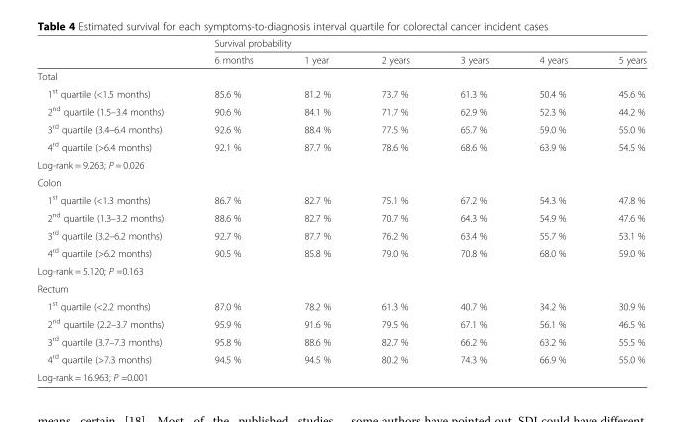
<table><thead><tr><td rowspan="2"></td><td colspan="6">Survival probability</td></tr><tr><td>6 months</td><td>1 year</td><td>2 years</td><td>3 years</td><td>4 years</td><td>5 years</td></tr></thead><tbody><tr><td colspan="7">Total</td></tr><tr><td>1<sup>st</sup> quartile (&lt;1.5 months)</td><td>85.6 %</td><td>81.2 %</td><td>73.7 %</td><td>61.3 %</td><td>50.4 %</td><td>45.6 %</td></tr><tr><td>2<sup>nd</sup> quartile (1.5–3.4 months)</td><td>90.6 %</td><td>84.1 %</td><td>71.7 %</td><td>62.9 %</td><td>52.3 %</td><td>44.2 %</td></tr><tr><td>3<sup>rd</sup> quartile (3.4–6.4 months)</td><td>92.6 %</td><td>88.4 %</td><td>77.5 %</td><td>65.7 %</td><td>59.0 %</td><td>55.0 %</td></tr><tr><td>4<sup>rd</sup> quartile (&gt;6.4 months)</td><td>92.1 %</td><td>87.7 %</td><td>78.6 %</td><td>68.6 %</td><td>63.9 %</td><td>54.5 %</td></tr><tr><td colspan="7">Log-rank = 9.263; P = 0.026</td></tr><tr><td colspan="7">Colon</td></tr><tr><td>1<sup>st</sup> quartile (&lt;1.3 months)</td><td>86.7 %</td><td>82.7 %</td><td>75.1 %</td><td>67.2 %</td><td>54.3 %</td><td>47.8 %</td></tr><tr><td>2<sup>nd</sup> quartile (1.3–3.2 months)</td><td>88.6 %</td><td>82.7 %</td><td>70.7 %</td><td>64.3 %</td><td>54.9 %</td><td>47.6 %</td></tr><tr><td>3<sup>rd</sup> quartile (3.2–6.2 months)</td><td>92.7 %</td><td>87.7 %</td><td>76.2 %</td><td>63.4 %</td><td>55.7 %</td><td>53.1 %</td></tr><tr><td>4<sup>rd</sup> quartile (&gt;6.2 months)</td><td>90.5 %</td><td>85.8 %</td><td>79.0 %</td><td>70.8 %</td><td>68.0 %</td><td>59.0 %</td></tr><tr><td colspan="7">Log-rank = 5.120; P =0.163</td></tr><tr><td colspan="7">Rectum</td></tr><tr><td>1<sup>st</sup> quartile (&lt;2.2 months)</td><td>87.0 %</td><td>78.2 %</td><td>61.3 %</td><td>40.7 %</td><td>34.2 %</td><td>30.9 %</td></tr><tr><td>2<sup>nd</sup> quartile (2.2–3.7 months)</td><td>95.9 %</td><td>91.6 %</td><td>79.5 %</td><td>67.1 %</td><td>56.1 %</td><td>46.5 %</td></tr><tr><td>3<sup>rd</sup> quartile (3.7–7.3 months)</td><td>95.8 %</td><td>88.6 %</td><td>82.7 %</td><td>66.2 %</td><td>63.2 %</td><td>55.5 %</td></tr><tr><td>4<sup>rd</sup> quartile (&gt;7.3 months)</td><td>94.5 %</td><td>94.5 %</td><td>80.2 %</td><td>74.3 %</td><td>66.9 %</td><td>55.0 %</td></tr><tr><td colspan="7">Log-rank = 16.963; P =0.001</td></tr></tbody></table>